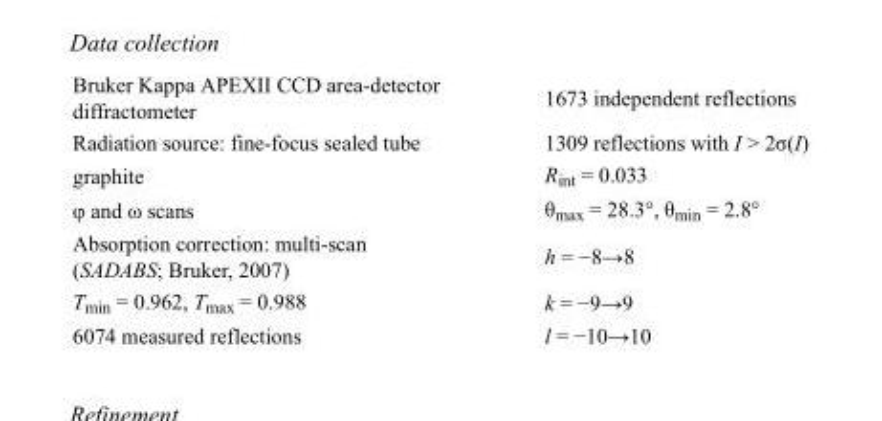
<table><tbody><tr><td>Bruker Kappa APEXII CCD area-detector diffractometer</td><td>1673 independent reflections</td></tr><tr><td>Radiation source: fine-focus sealed tube</td><td>1309 reflections with I &gt; 2σ(I)</td></tr><tr><td>graphite</td><td>R<sub>int</sub> = 0.033</td></tr><tr><td>φ and ω scans</td><td>θ<sub>max</sub> = 28.3°, θ<sub>min</sub> = 2.8°</td></tr><tr><td>Absorption correction: multi-scan (SADABS; Bruker, 2007)</td><td>h = −8→8</td></tr><tr><td>T<sub>min</sub> = 0.962, T<sub>max</sub> = 0.988</td><td>k = −9→9</td></tr><tr><td>6074 measured reflections</td><td>l = −10→10</td></tr></tbody></table>